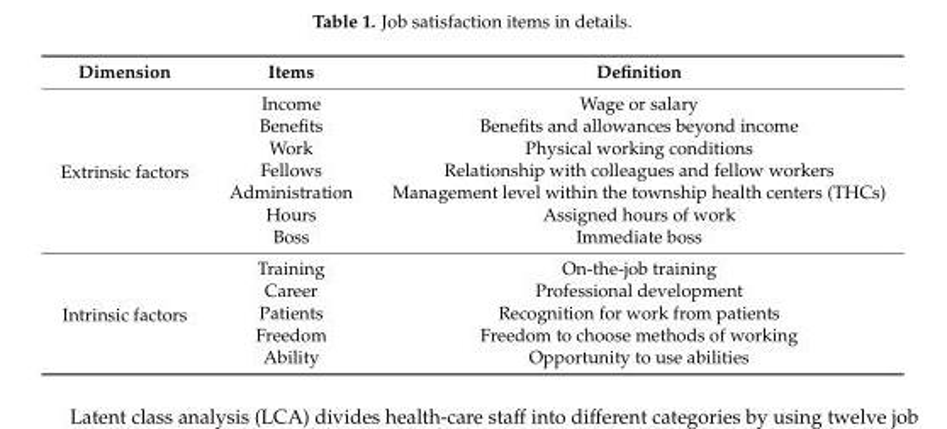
<table><thead><tr><td>Dimension</td><td>Items</td><td>Definition</td></tr></thead><tbody><tr><td rowspan="7">Extrinsic factors</td><td>Income</td><td>Wage or salary</td></tr><tr><td>Benefits</td><td>Benefits and allowances beyond income</td></tr><tr><td>Work</td><td>Physical working conditions</td></tr><tr><td>Fellows</td><td>Relationship with colleagues and fellow workers</td></tr><tr><td>Administration</td><td>Management level within the township health centers (THCs)</td></tr><tr><td>Hours</td><td>Assigned hours of work</td></tr><tr><td>Boss</td><td>Immediate boss</td></tr><tr><td rowspan="5">Intrinsic factors</td><td>Training</td><td>On-the-job training</td></tr><tr><td>Career</td><td>Professional development</td></tr><tr><td>Patients</td><td>Recognition for work from patients</td></tr><tr><td>Freedom</td><td>Freedom to choose methods of working</td></tr><tr><td>Ability</td><td>Opportunity to use abilities</td></tr></tbody></table>